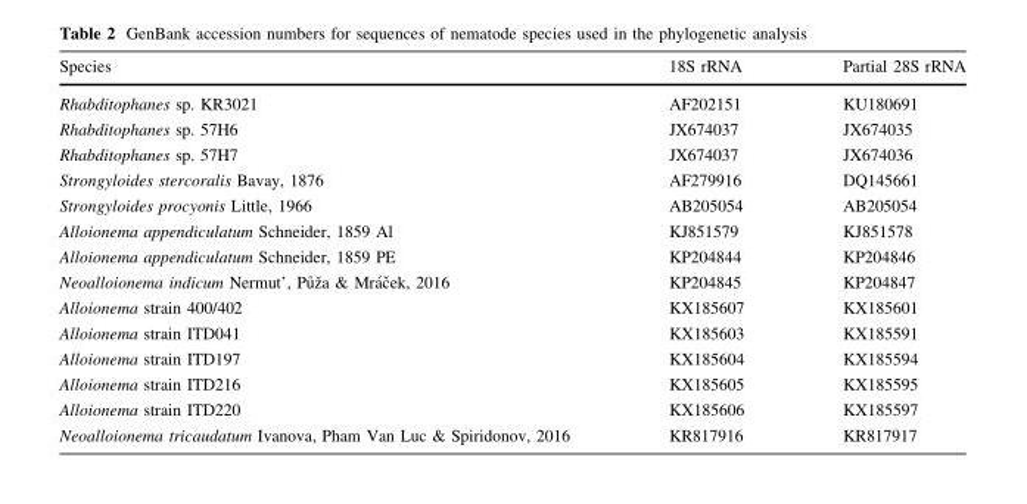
<table><thead><tr><td>Species</td><td>18S rRNA</td><td>Partial 28S rRNA</td></tr></thead><tbody><tr><td>Rhabditophanes sp. KR3021</td><td>AF202151</td><td>KU180691</td></tr><tr><td>Rhabditophanes sp. 57H6</td><td>JX674037</td><td>JX674035</td></tr><tr><td>Rhabditophanes sp. 57H7</td><td>JX674037</td><td>JX674036</td></tr><tr><td>Strongyloides stercoralis Bavay, 1876</td><td>AF279916</td><td>DQ145661</td></tr><tr><td>Strongyloides procyonis Little, 1966</td><td>AB205054</td><td>AB205054</td></tr><tr><td>Alloionema appendiculatum Schneider, 1859 Al</td><td>KJ851579</td><td>KJ851578</td></tr><tr><td>Alloionema appendiculatum Schneider, 1859 PE</td><td>KP204844</td><td>KP204846</td></tr><tr><td>Neoalloionema indicum Nermut’, Pu˚zˇa &amp; Mra´cˇek, 2016</td><td>KP204845</td><td>KP204847</td></tr><tr><td>Alloionema strain 400/402</td><td>KX185607</td><td>KX185601</td></tr><tr><td>Alloionema strain ITD041</td><td>KX185603</td><td>KX185591</td></tr><tr><td>Alloionema strain ITD197</td><td>KX185604</td><td>KX185594</td></tr><tr><td>Alloionema strain ITD216</td><td>KX185605</td><td>KX185595</td></tr><tr><td>Alloionema strain ITD220</td><td>KX185606</td><td>KX185597</td></tr><tr><td>Neoalloionema tricaudatum Ivanova, Pham Van Luc &amp; Spiridonov, 2016</td><td>KR817916</td><td>KR817917</td></tr></tbody></table>